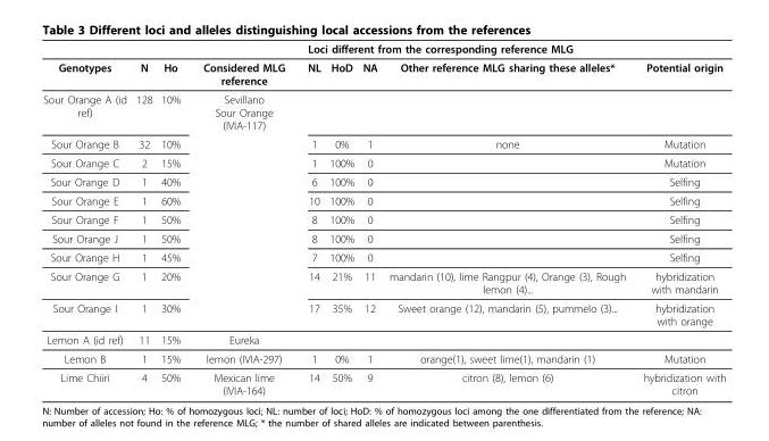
<table><thead><tr><td rowspan="2">Genotypes</td><td rowspan="2">N</td><td rowspan="2">Ho</td><td rowspan="2">Considered MLG reference</td><td colspan="5">Loci different from the corresponding reference MLG</td></tr><tr><td>NL</td><td>HoD</td><td>NA</td><td>Other reference MLG sharing these alleles*</td><td>Potential origin</td></tr></thead><tbody><tr><td>Sour Orange A (id ref)</td><td>128</td><td>10%</td><td>Sevillano Sour Orange (IVIA-117)</td><td></td><td></td><td></td><td></td><td></td></tr><tr><td>Sour Orange B</td><td>32</td><td>10%</td><td></td><td>1</td><td>0%</td><td>1</td><td>none</td><td>Mutation</td></tr><tr><td>Sour Orange C</td><td>2</td><td>15%</td><td></td><td>1</td><td>100%</td><td>0</td><td></td><td>Mutation</td></tr><tr><td>Sour Orange D</td><td>1</td><td>40%</td><td></td><td>6</td><td>100%</td><td>0</td><td></td><td>Selfing</td></tr><tr><td>Sour Orange E</td><td>1</td><td>60%</td><td></td><td>10</td><td>100%</td><td>0</td><td></td><td>Selfing</td></tr><tr><td>Sour Orange F</td><td>1</td><td>50%</td><td></td><td>8</td><td>100%</td><td>0</td><td></td><td>Selfing</td></tr><tr><td>Sour Orange J</td><td>1</td><td>50%</td><td></td><td>8</td><td>100%</td><td>0</td><td></td><td>Selfing</td></tr><tr><td>Sour Orange H</td><td>1</td><td>45%</td><td></td><td>7</td><td>100%</td><td>0</td><td></td><td>Selfing</td></tr><tr><td>Sour Orange G</td><td>1</td><td>20%</td><td></td><td>14</td><td>21%</td><td>11</td><td>mandarin (10), lime Rangpur (4), Orange (3), Rough lemon (4)...</td><td>hybridization with mandarin</td></tr><tr><td>Sour Orange I</td><td>1</td><td>30%</td><td></td><td>17</td><td>35%</td><td>12</td><td>Sweet orange (12), mandarin (5), pummelo (3)...</td><td>hybridization with orange</td></tr><tr><td>Lemon A (id ref)</td><td>11</td><td>15%</td><td>Eureka</td><td></td><td></td><td></td><td></td><td></td></tr><tr><td>Lemon B</td><td>1</td><td>15%</td><td>lemon (IVIA-297)</td><td>1</td><td>0%</td><td>1</td><td>orange(1), sweet lime(1), mandarin (1)</td><td>Mutation</td></tr><tr><td>Lime Chiiri</td><td>4</td><td>50%</td><td>Mexican lime (IVIA-164)</td><td>14</td><td>50%</td><td>9</td><td>citron (8), lemon (6)</td><td>hybridization with citron</td></tr></tbody></table>